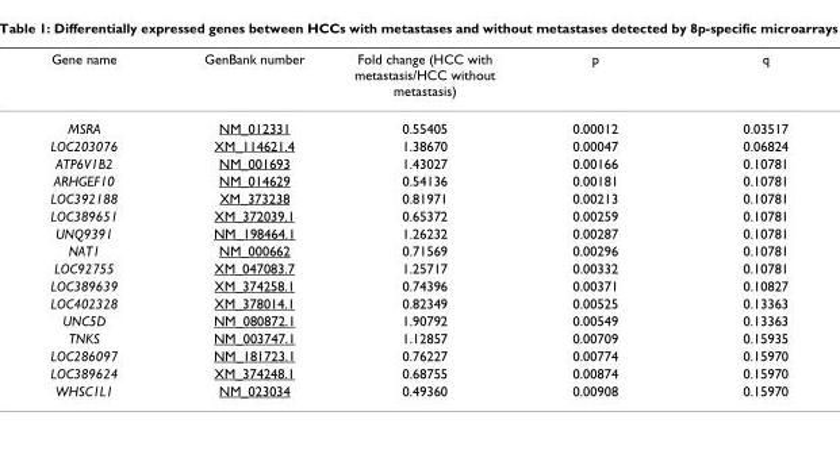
<table><thead><tr><td>Gene name</td><td>GenBank number</td><td>Fold change (HCC with metastasis/HCC without metastasis)</td><td>p</td><td>q</td></tr></thead><tbody><tr><td>MSRA</td><td>NM_012331</td><td>0.55405</td><td>0.00012</td><td>0.03517</td></tr><tr><td>LOC203076</td><td>XM_114621.4</td><td>1.38670</td><td>0.00047</td><td>0.06824</td></tr><tr><td>ATP6V1B2</td><td>NM_001693</td><td>1.43027</td><td>0.00166</td><td>0.10781</td></tr><tr><td>ARHGEF10</td><td>NM_014629</td><td>0.54136</td><td>0.00181</td><td>0.10781</td></tr><tr><td>LOC392188</td><td>XM_373238</td><td>0.81971</td><td>0.00213</td><td>0.10781</td></tr><tr><td>LOC389651</td><td>XM_372039.1</td><td>0.65372</td><td>0.00259</td><td>0.10781</td></tr><tr><td>UNQ9391</td><td>NM_198464.1</td><td>1.26232</td><td>0.00287</td><td>0.10781</td></tr><tr><td>NAT1</td><td>NM_000662</td><td>0.71569</td><td>0.00296</td><td>0.10781</td></tr><tr><td>LOC92755</td><td>XM_047083.7</td><td>1.25717</td><td>0.00332</td><td>0.10781</td></tr><tr><td>LOC389639</td><td>XM_374258.1</td><td>0.74396</td><td>0.00371</td><td>0.10827</td></tr><tr><td>LOC402328</td><td>XM_378014.1</td><td>0.82349</td><td>0.00525</td><td>0.13363</td></tr><tr><td>UNC5D</td><td>NM_080872.1</td><td>1.90792</td><td>0.00549</td><td>0.13363</td></tr><tr><td>TNKS</td><td>NM_003747.1</td><td>1.12857</td><td>0.00709</td><td>0.15935</td></tr><tr><td>LOC286097</td><td>NM_181723.1</td><td>0.76227</td><td>0.00774</td><td>0.15970</td></tr><tr><td>LOC389624</td><td>XM_374248.1</td><td>0.68755</td><td>0.00874</td><td>0.15970</td></tr><tr><td>WHSC1L1</td><td>NM_023034</td><td>0.49360</td><td>0.00908</td><td>0.15970</td></tr></tbody></table>